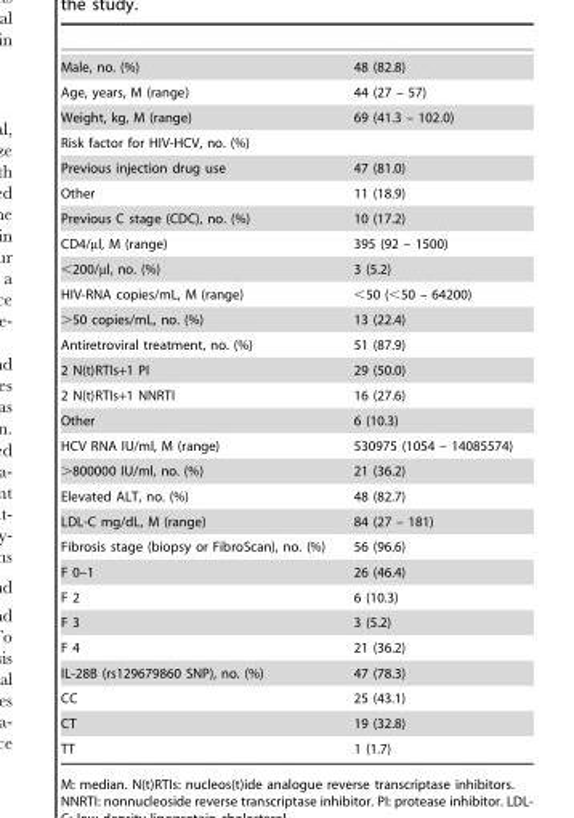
<table><tbody><tr><td>Male, no. (%)</td><td>48 (82.8)</td></tr><tr><td>Age, years, M (range)</td><td>44 (27 – 57)</td></tr><tr><td>Weight, kg, M (range)</td><td>69 (41.3 – 102.0)</td></tr><tr><td colspan="2">Risk factor for HIV-HCV, no. (%)</td></tr><tr><td>Previous injection drug use</td><td>47 (81.0)</td></tr><tr><td>Other</td><td>11 (18.9)</td></tr><tr><td>Previous C stage (CDC), no. (%)</td><td>10 (17.2)</td></tr><tr><td>CD4/µl, M (range)</td><td>395 (92 – 1500)</td></tr><tr><td>&lt;200/µl, no. (%)</td><td>3 (5.2)</td></tr><tr><td>HIV-RNA copies/mL, M (range)</td><td>&lt;50 (&lt;50 – 64200)</td></tr><tr><td>&gt;50 copies/mL, no. (%)</td><td>13 (22.4)</td></tr><tr><td>Antiretroviral treatment, no. (%)</td><td>51 (87.9)</td></tr><tr><td>2 N(t)RTIs+1 PI</td><td>29 (50.0)</td></tr><tr><td>2 N(t)RTIs+1 NNRTI</td><td>16 (27.6)</td></tr><tr><td>Other</td><td>6 (10.3)</td></tr><tr><td>HCV RNA IU/ml, M (range)</td><td>530975 (1054 – 14085574)</td></tr><tr><td>&gt;800000 IU/ml, no. (%)</td><td>21 (36.2)</td></tr><tr><td>Elevated ALT, no. (%)</td><td>48 (82.7)</td></tr><tr><td>LDL-C mg/dL, M (range)</td><td>84 (27 – 181)</td></tr><tr><td>Fibrosis stage (biopsy or FibroScan), no. (%)</td><td>56 (96.6)</td></tr><tr><td>F 0–1</td><td>26 (46.4)</td></tr><tr><td>F 2</td><td>6 (10.3)</td></tr><tr><td>F 3</td><td>3 (5.2)</td></tr><tr><td>F 4</td><td>21 (36.2)</td></tr><tr><td>IL-28B (rs129679860 SNP), no. (%)</td><td>47 (78.3)</td></tr><tr><td>CC</td><td>25 (43.1)</td></tr><tr><td>CT</td><td>19 (32.8)</td></tr><tr><td>TT</td><td>1 (1.7)</td></tr></tbody></table>